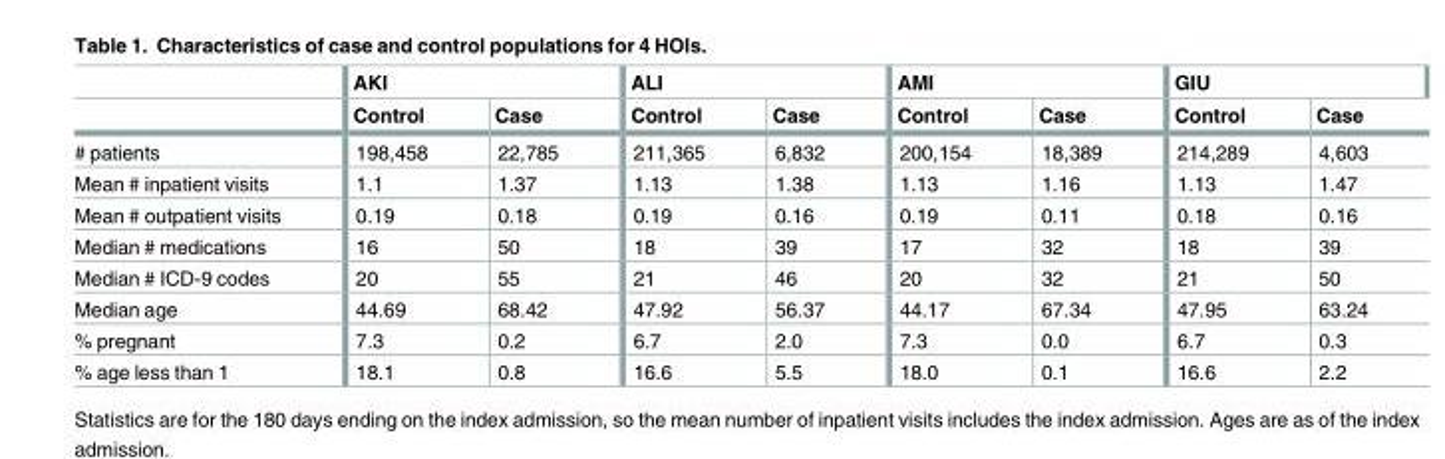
<table><thead><tr><td rowspan="2"></td><td colspan="2">AKI</td><td colspan="2">ALI</td><td colspan="2">AMI</td><td colspan="2">GIU</td></tr><tr><td>Control</td><td>Case</td><td>Control</td><td>Case</td><td>Control</td><td>Case</td><td>Control</td><td>Case</td></tr></thead><tbody><tr><td># patients</td><td>198,458</td><td>22,785</td><td>211,365</td><td>6,832</td><td>200,154</td><td>18,389</td><td>214,289</td><td>4,603</td></tr><tr><td>Mean # inpatient visits</td><td>1.1</td><td>1.37</td><td>1.13</td><td>1.38</td><td>1.13</td><td>1.16</td><td>1.13</td><td>1.47</td></tr><tr><td>Mean # outpatient visits</td><td>0.19</td><td>0.18</td><td>0.19</td><td>0.16</td><td>0.19</td><td>0.11</td><td>0.18</td><td>0.16</td></tr><tr><td>Median # medications</td><td>16</td><td>50</td><td>18</td><td>39</td><td>17</td><td>32</td><td>18</td><td>39</td></tr><tr><td>Median # ICD-9 codes</td><td>20</td><td>55</td><td>21</td><td>46</td><td>20</td><td>32</td><td>21</td><td>50</td></tr><tr><td>Median age</td><td>44.69</td><td>68.42</td><td>47.92</td><td>56.37</td><td>44.17</td><td>67.34</td><td>47.95</td><td>63.24</td></tr><tr><td>% pregnant</td><td>7.3</td><td>0.2</td><td>6.7</td><td>2.0</td><td>7.3</td><td>0.0</td><td>6.7</td><td>0.3</td></tr><tr><td>% age less than 1</td><td>18.1</td><td>0.8</td><td>16.6</td><td>5.5</td><td>18.0</td><td>0.1</td><td>16.6</td><td>2.2</td></tr></tbody></table>